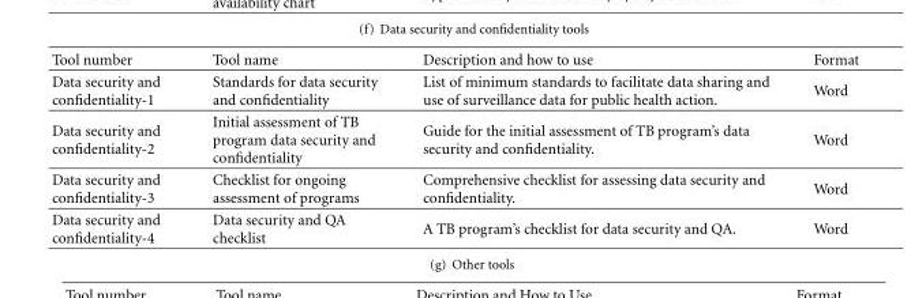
<table><thead><tr><td>Tool number</td><td>Tool name</td><td>Description and how to use</td><td>Format</td></tr></thead><tbody><tr><td>Data security and confidentiality-1</td><td>Standards for data security and confidentiality</td><td>List of minimum standards to facilitate data sharing and use of surveillance data for public health action.</td><td>Word</td></tr><tr><td>Data security and confidentiality-2</td><td>Initial assessment of TB program data security and confidentiality</td><td>Guide for the initial assessment of TB program’s data security and confidentiality.</td><td>Word</td></tr><tr><td>Data security and confidentiality-3</td><td>Checklist for ongoing assessment of programs</td><td>Comprehensive checklist for assessing data security and confidentiality.</td><td>Word</td></tr><tr><td>Data security and confidentiality-4</td><td>Data security and QA checklist</td><td>A TB program’s checklist for data security and QA.</td><td>Word</td></tr></tbody></table>